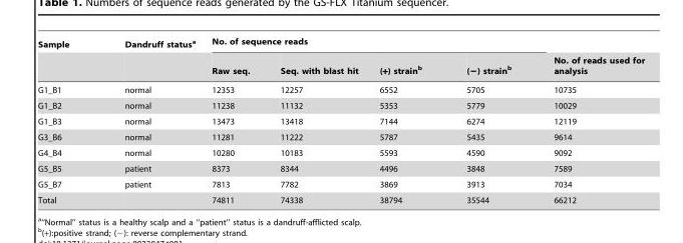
<table><thead><tr><td rowspan="2">Sample</td><td rowspan="2">Dandruff status<sup>a</sup></td><td colspan="4">No. of sequence reads</td><td rowspan="2">No. of reads used for analysis</td></tr><tr><td>Raw seq.</td><td>Seq. with blast hit</td><td>(+) strain<sup>b</sup></td><td>(−) strain<sup>b</sup></td></tr></thead><tbody><tr><td>G1_B1</td><td>normal</td><td>12353</td><td>12257</td><td>6552</td><td>5705</td><td>10735</td></tr><tr><td>G1_B2</td><td>normal</td><td>11238</td><td>11132</td><td>5353</td><td>5779</td><td>10029</td></tr><tr><td>G1_B3</td><td>normal</td><td>13473</td><td>13418</td><td>7144</td><td>6274</td><td>12119</td></tr><tr><td>G3_B6</td><td>normal</td><td>11281</td><td>11222</td><td>5787</td><td>5435</td><td>9614</td></tr><tr><td>G4_B4</td><td>normal</td><td>10280</td><td>10183</td><td>5593</td><td>4590</td><td>9092</td></tr><tr><td>G5_B5</td><td>patient</td><td>8373</td><td>8344</td><td>4496</td><td>3848</td><td>7589</td></tr><tr><td>G5_B7</td><td>patient</td><td>7813</td><td>7782</td><td>3869</td><td>3913</td><td>7034</td></tr><tr><td>Total</td><td></td><td>74811</td><td>74338</td><td>38794</td><td>35544</td><td>66212</td></tr></tbody></table>